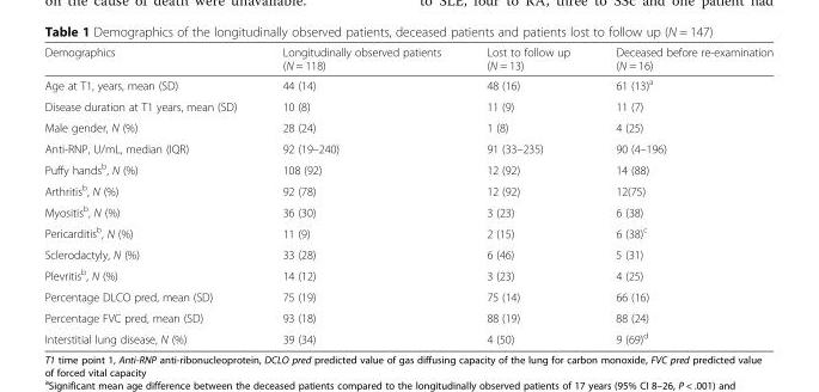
<table><thead><tr><td>Demographics</td><td>Longitudinally observed patients (N = 118)</td><td>Lost to follow up (N = 13)</td><td>Deceased before re-examination (N = 16)</td></tr></thead><tbody><tr><td>Age at T1, years, mean (SD)</td><td>44 (14)</td><td>48 (16)</td><td>61 (13)<sup>a</sup></td></tr><tr><td>Disease duration at T1 years, mean (SD)</td><td>10 (8)</td><td>11 (9)</td><td>11 (7)</td></tr><tr><td>Male gender, N (%)</td><td>28 (24)</td><td>1 (8)</td><td>4 (25)</td></tr><tr><td>Anti-RNP, U/mL, median (IQR)</td><td>92 (19–240)</td><td>91 (33–235)</td><td>90 (4–196)</td></tr><tr><td>Puffy hands<sup>b</sup>, N (%)</td><td>108 (92)</td><td>12 (92)</td><td>14 (88)</td></tr><tr><td>Arthritis<sup>b</sup>, N (%)</td><td>92 (78)</td><td>12 (92)</td><td>12(75)</td></tr><tr><td>Myositis<sup>b</sup>, N (%)</td><td>36 (30)</td><td>3 (23)</td><td>6 (38)</td></tr><tr><td>Pericarditis<sup>b</sup>, N (%)</td><td>11 (9)</td><td>2 (15)</td><td>6 (38)<sup>c</sup></td></tr><tr><td>Sclerodactyly, N (%)</td><td>33 (28)</td><td>6 (46)</td><td>5 (31)</td></tr><tr><td>Plevritis<sup>b</sup>, N (%)</td><td>14 (12)</td><td>3 (23)</td><td>4 (25)</td></tr><tr><td>Percentage DLCO pred, mean (SD)</td><td>75 (19)</td><td>75 (14)</td><td>66 (16)</td></tr><tr><td>Percentage FVC pred, mean (SD)</td><td>93 (18)</td><td>88 (19)</td><td>88 (24)</td></tr><tr><td>Interstitial lung disease, N (%)</td><td>39 (34)</td><td>4 (50)</td><td>9 (69)<sup>d</sup></td></tr></tbody></table>